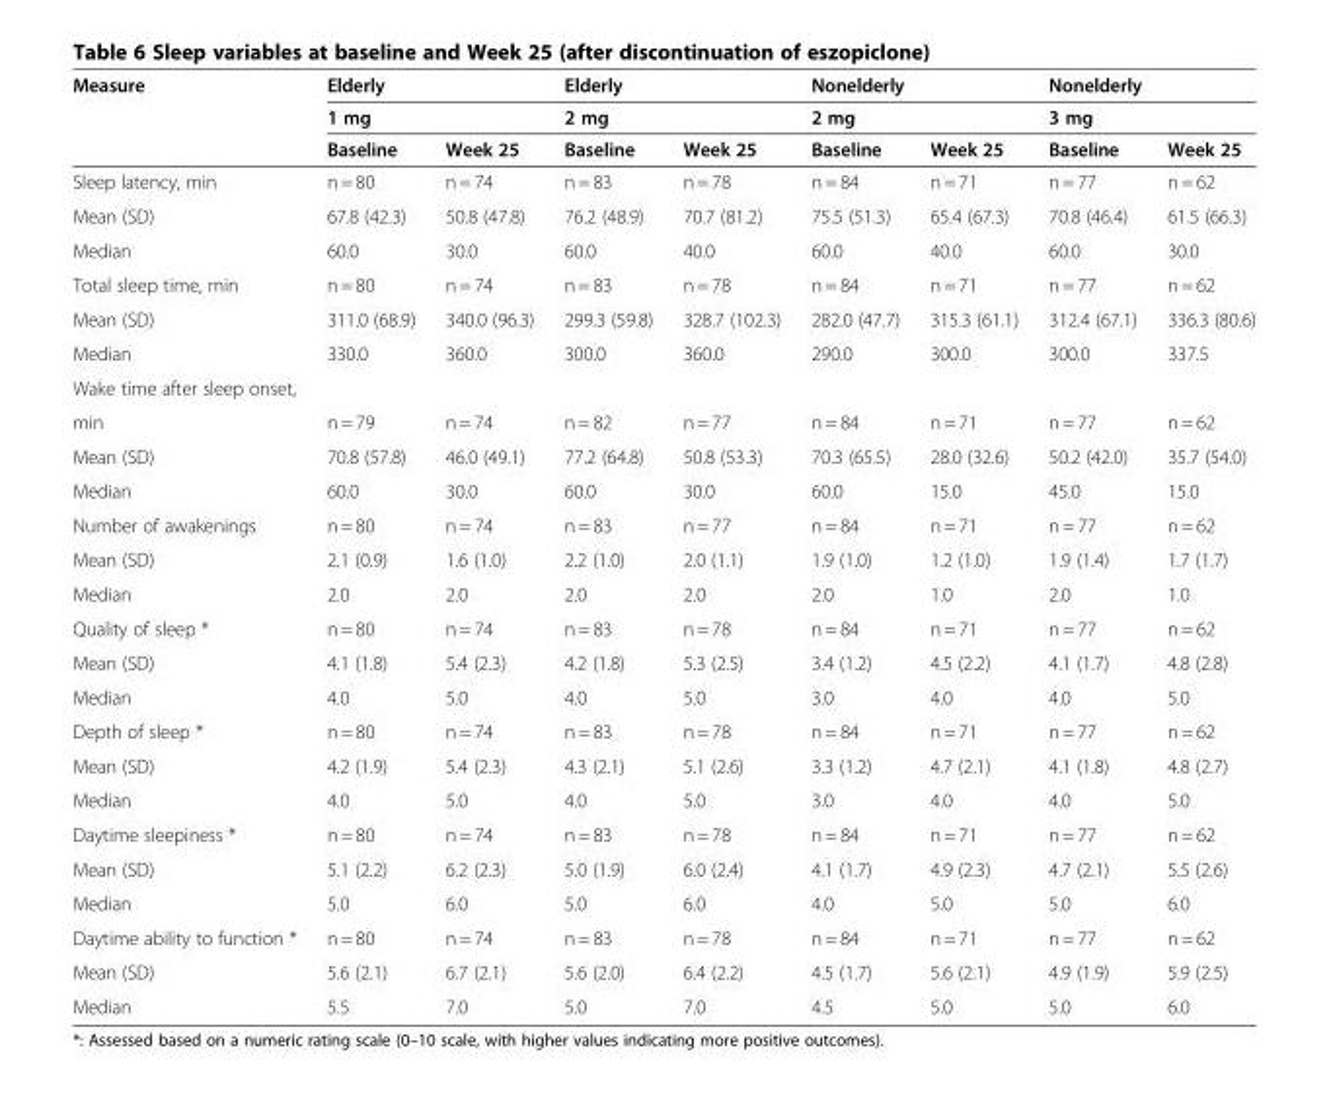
<table><thead><tr><td rowspan="3">Measure</td><td rowspan="2" colspan="2">Elderly 1 mg</td><td rowspan="2" colspan="2">Elderly 2 mg</td><td rowspan="2" colspan="2">Nonelderly 2 mg</td><td rowspan="2" colspan="2">Nonelderly 3 mg</td></tr><tr></tr><tr><td>Baseline</td><td>Week 25</td><td>Baseline</td><td>Week 25</td><td>Baseline</td><td>Week 25</td><td>Baseline</td><td>Week 25</td></tr></thead><tbody><tr><td>Sleep latency, min</td><td>n = 80</td><td>n = 74</td><td>n = 83</td><td>n = 78</td><td>n = 84</td><td>n = 71</td><td>n = 77</td><td>n = 62</td></tr><tr><td>Mean (SD)</td><td>67.8 (42.3)</td><td>50.8 (47.8)</td><td>76.2 (48.9)</td><td>70.7 (81.2)</td><td>75.5 (51.3)</td><td>65.4 (67.3)</td><td>70.8 (46.4)</td><td>61.5 (66.3)</td></tr><tr><td>Median</td><td>60.0</td><td>30.0</td><td>60.0</td><td>40.0</td><td>60.0</td><td>40.0</td><td>60.0</td><td>30.0</td></tr><tr><td>Total sleep time, min</td><td>n = 80</td><td>n = 74</td><td>n = 83</td><td>n = 78</td><td>n = 84</td><td>n = 71</td><td>n = 77</td><td>n = 62</td></tr><tr><td>Mean (SD)</td><td>311.0 (68.9)</td><td>340.0 (96.3)</td><td>299.3 (59.8)</td><td>328.7 (102.3)</td><td>282.0 (47.7)</td><td>315.3 (61.1)</td><td>312.4 (67.1)</td><td>336.3 (80.6)</td></tr><tr><td>Median</td><td>330.0</td><td>360.0</td><td>300.0</td><td>360.0</td><td>290.0</td><td>300.0</td><td>300.0</td><td>337.5</td></tr><tr><td colspan="9">Wake time after sleep onset,</td></tr><tr><td>min</td><td>n = 79</td><td>n = 74</td><td>n = 82</td><td>n = 77</td><td>n = 84</td><td>n = 71</td><td>n = 77</td><td>n = 62</td></tr><tr><td>Mean (SD)</td><td>70.8 (57.8)</td><td>46.0 (49.1)</td><td>77.2 (64.8)</td><td>50.8 (53.3)</td><td>70.3 (65.5)</td><td>28.0 (32.6)</td><td>50.2 (42.0)</td><td>35.7 (54.0)</td></tr><tr><td>Median</td><td>60.0</td><td>30.0</td><td>60.0</td><td>30.0</td><td>60.0</td><td>15.0</td><td>45.0</td><td>15.0</td></tr><tr><td>Number of awakenings</td><td>n = 80</td><td>n = 74</td><td>n = 83</td><td>n = 77</td><td>n = 84</td><td>n = 71</td><td>n = 77</td><td>n = 62</td></tr><tr><td>Mean (SD)</td><td>2.1 (0.9)</td><td>1.6 (1.0)</td><td>2.2 (1.0)</td><td>2.0 (1.1)</td><td>1.9 (1.0)</td><td>1.2 (1.0)</td><td>1.9 (1.4)</td><td>1.7 (1.7)</td></tr><tr><td>Median</td><td>2.0</td><td>2.0</td><td>2.0</td><td>2.0</td><td>2.0</td><td>1.0</td><td>2.0</td><td>1.0</td></tr><tr><td>Quality of sleep *</td><td>n = 80</td><td>n = 74</td><td>n = 83</td><td>n = 78</td><td>n = 84</td><td>n = 71</td><td>n = 77</td><td>n = 62</td></tr><tr><td>Mean (SD)</td><td>4.1 (1.8)</td><td>5.4 (2.3)</td><td>4.2 (1.8)</td><td>5.3 (2.5)</td><td>3.4 (1.2)</td><td>4.5 (2.2)</td><td>4.1 (1.7)</td><td>4.8 (2.8)</td></tr><tr><td>Median</td><td>4.0</td><td>5.0</td><td>4.0</td><td>5.0</td><td>3.0</td><td>4.0</td><td>4.0</td><td>5.0</td></tr><tr><td>Depth of sleep *</td><td>n = 80</td><td>n = 74</td><td>n = 83</td><td>n = 78</td><td>n = 84</td><td>n = 71</td><td>n = 77</td><td>n = 62</td></tr><tr><td>Mean (SD)</td><td>4.2 (1.9)</td><td>5.4 (2.3)</td><td>4.3 (2.1)</td><td>5.1 (2.6)</td><td>3.3 (1.2)</td><td>4.7 (2.1)</td><td>4.1 (1.8)</td><td>4.8 (2.7)</td></tr><tr><td>Median</td><td>4.0</td><td>5.0</td><td>4.0</td><td>5.0</td><td>3.0</td><td>4.0</td><td>4.0</td><td>5.0</td></tr><tr><td>Daytime sleepiness *</td><td>n = 80</td><td>n = 74</td><td>n = 83</td><td>n = 78</td><td>n = 84</td><td>n = 71</td><td>n = 77</td><td>n = 62</td></tr><tr><td>Mean (SD)</td><td>5.1 (2.2)</td><td>6.2 (2.3)</td><td>5.0 (1.9)</td><td>6.0 (2.4)</td><td>4.1 (1.7)</td><td>4.9 (2.3)</td><td>4.7 (2.1)</td><td>5.5 (2.6)</td></tr><tr><td>Median</td><td>5.0</td><td>6.0</td><td>5.0</td><td>6.0</td><td>4.0</td><td>5.0</td><td>5.0</td><td>6.0</td></tr><tr><td>Daytime ability to function *</td><td>n = 80</td><td>n = 74</td><td>n = 83</td><td>n = 78</td><td>n = 84</td><td>n = 71</td><td>n = 77</td><td>n = 62</td></tr><tr><td>Mean (SD)</td><td>5.6 (2.1)</td><td>6.7 (2.1)</td><td>5.6 (2.0)</td><td>6.4 (2.2)</td><td>4.5 (1.7)</td><td>5.6 (2.1)</td><td>4.9 (1.9)</td><td>5.9 (2.5)</td></tr><tr><td>Median</td><td>5.5</td><td>7.0</td><td>5.0</td><td>7.0</td><td>4.5</td><td>5.0</td><td>5.0</td><td>6.0</td></tr></tbody></table>